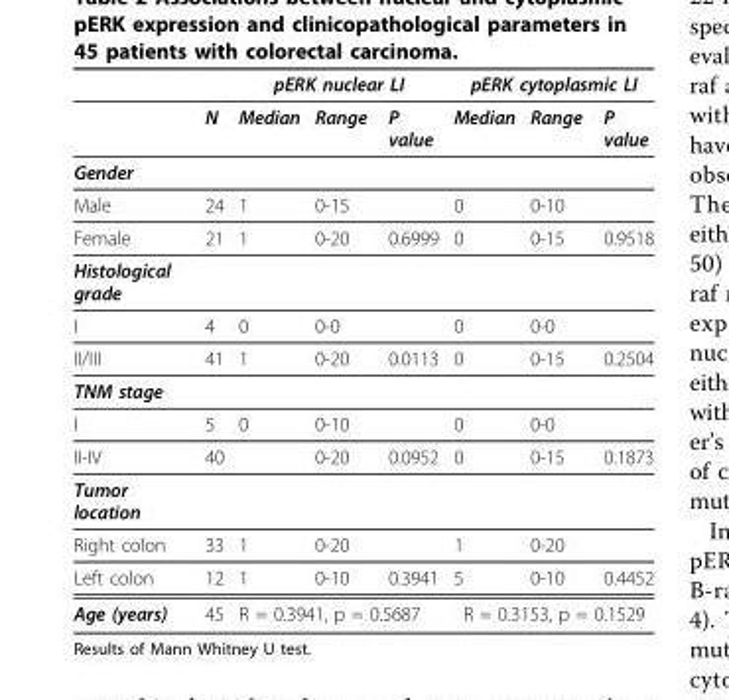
<table><thead><tr><td rowspan="2"></td><td rowspan="2">N</td><td colspan="3">pERK nuclear LI</td><td colspan="3">pERK cytoplasmic LI</td></tr><tr><td>Median</td><td>Range</td><td>P value</td><td>Median</td><td>Range</td><td>P value</td></tr></thead><tbody><tr><td colspan="8">Gender</td></tr><tr><td>Male</td><td>24</td><td>1</td><td>0-15</td><td></td><td>0</td><td>0-10</td><td></td></tr><tr><td>Female</td><td>21</td><td>1</td><td>0-20</td><td>0.6999</td><td>0</td><td>0-15</td><td>0.9518</td></tr><tr><td colspan="8">Histological grade</td></tr><tr><td>I</td><td>4</td><td>0</td><td>0-0</td><td></td><td>0</td><td>0-0</td><td></td></tr><tr><td>II/III</td><td>41</td><td>1</td><td>0-20</td><td>0.0113</td><td>0</td><td>0-15</td><td>0.2504</td></tr><tr><td colspan="8">TNM stage</td></tr><tr><td>I</td><td>5</td><td>0</td><td>0-10</td><td></td><td>0</td><td>0-0</td><td></td></tr><tr><td>II-IV</td><td>40</td><td></td><td>0-20</td><td>0.0952</td><td>0</td><td>0-15</td><td>0.1873</td></tr><tr><td colspan="8">Tumor location</td></tr><tr><td>Right colon</td><td>33</td><td>1</td><td>0-20</td><td></td><td>1</td><td>0-20</td><td></td></tr><tr><td>Left colon</td><td>12</td><td>1</td><td>0-10</td><td>0.3941</td><td>5</td><td>0-10</td><td>0.4452</td></tr><tr><td>Age (years)</td><td>45</td><td colspan="3">R = 0.3941, p = 0.5687</td><td colspan="3">R = 0.3153, p = 0.1529</td></tr></tbody></table>